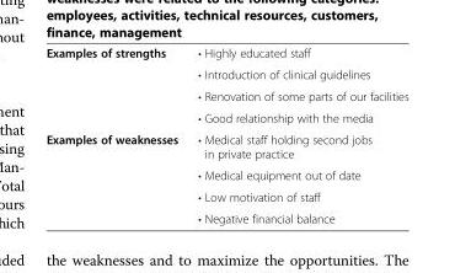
<table><tbody><tr><td rowspan="4">Examples of strengths</td><td>• Highly educated staff</td></tr><tr><td>• Introduction of clinical guidelines</td></tr><tr><td>• Renovation of some parts of our facilities</td></tr><tr><td>• Good relationship with the media</td></tr><tr><td rowspan="4">Examples of weaknesses</td><td>• Medical staff holding second jobs in private practice</td></tr><tr><td>• Medical equipment out of date</td></tr><tr><td>• Low motivation of staff</td></tr><tr><td>• Negative financial balance</td></tr></tbody></table>